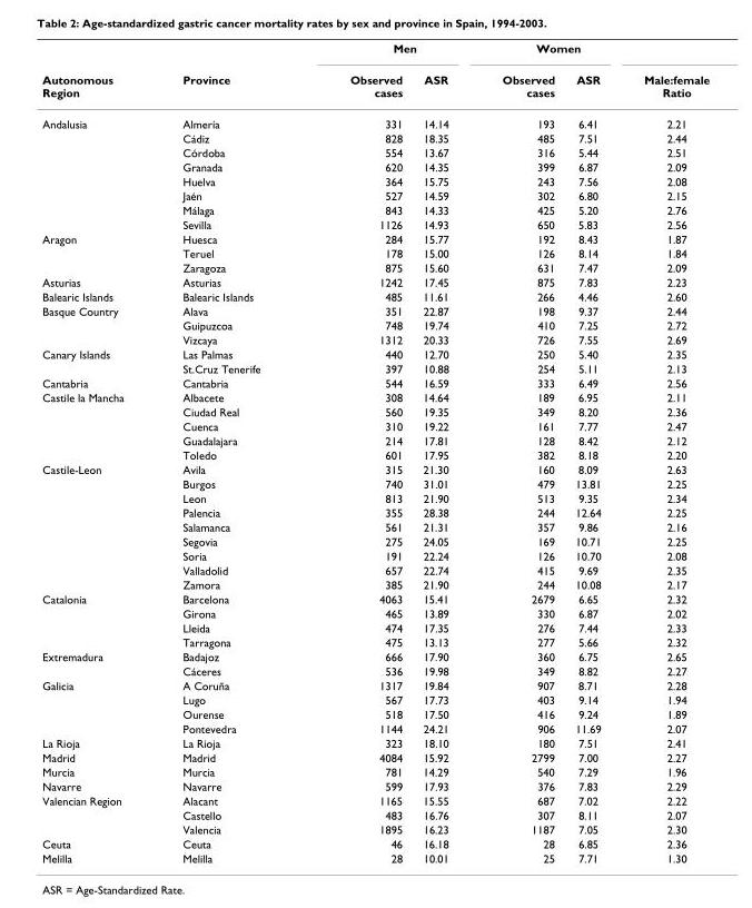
<table><thead><tr><td rowspan="2">Autonomous Region</td><td rowspan="2">Province</td><td colspan="2">Men</td><td colspan="2">Women</td><td rowspan="2">Male:female Ratio</td></tr><tr><td>Observed cases</td><td>ASR</td><td>Observed cases</td><td>ASR</td></tr></thead><tbody><tr><td rowspan="8">Andalusia</td><td>Almería</td><td>331</td><td>14.14</td><td>193</td><td>6.41</td><td>2.21</td></tr><tr><td>Cádiz</td><td>828</td><td>18.35</td><td>485</td><td>7.51</td><td>2.44</td></tr><tr><td>Córdoba</td><td>554</td><td>13.67</td><td>316</td><td>5.44</td><td>2.51</td></tr><tr><td>Granada</td><td>620</td><td>14.35</td><td>399</td><td>6.87</td><td>2.09</td></tr><tr><td>Huelva</td><td>364</td><td>15.75</td><td>243</td><td>7.56</td><td>2.08</td></tr><tr><td>Jaén</td><td>527</td><td>14.59</td><td>302</td><td>6.80</td><td>2.15</td></tr><tr><td>Málaga</td><td>843</td><td>14.33</td><td>425</td><td>5.20</td><td>2.76</td></tr><tr><td>Sevilla</td><td>1126</td><td>14.93</td><td>650</td><td>5.83</td><td>2.56</td></tr><tr><td rowspan="3">Aragon</td><td>Huesca</td><td>284</td><td>15.77</td><td>192</td><td>8.43</td><td>1.87</td></tr><tr><td>Teruel</td><td>178</td><td>15.00</td><td>126</td><td>8.14</td><td>1.84</td></tr><tr><td>Zaragoza</td><td>875</td><td>15.60</td><td>631</td><td>7.47</td><td>2.09</td></tr><tr><td>Asturias</td><td>Asturias</td><td>1242</td><td>17.45</td><td>875</td><td>7.83</td><td>2.23</td></tr><tr><td>Balearic Islands</td><td>Balearic Islands</td><td>485</td><td>11.61</td><td>266</td><td>4.46</td><td>2.60</td></tr><tr><td rowspan="3">Basque Country</td><td>Alava</td><td>351</td><td>22.87</td><td>198</td><td>9.37</td><td>2.44</td></tr><tr><td>Guipuzcoa</td><td>748</td><td>19.74</td><td>410</td><td>7.25</td><td>2.72</td></tr><tr><td>Vizcaya</td><td>1312</td><td>20.33</td><td>726</td><td>7.55</td><td>2.69</td></tr><tr><td rowspan="2">Canary Islands</td><td>Las Palmas</td><td>440</td><td>12.70</td><td>250</td><td>5.40</td><td>2.35</td></tr><tr><td>St.Cruz Tenerife</td><td>397</td><td>10.88</td><td>254</td><td>5.11</td><td>2.13</td></tr><tr><td>Cantabria</td><td>Cantabria</td><td>544</td><td>16.59</td><td>333</td><td>6.49</td><td>2.56</td></tr><tr><td rowspan="5">Castile la Mancha</td><td>Albacete</td><td>308</td><td>14.64</td><td>189</td><td>6.95</td><td>2.11</td></tr><tr><td>Ciudad Real</td><td>560</td><td>19.35</td><td>349</td><td>8.20</td><td>2.36</td></tr><tr><td>Cuenca</td><td>310</td><td>19.22</td><td>161</td><td>7.77</td><td>2.47</td></tr><tr><td>Guadalajara</td><td>214</td><td>17.81</td><td>128</td><td>8.42</td><td>2.12</td></tr><tr><td>Toledo</td><td>601</td><td>17.95</td><td>382</td><td>8.18</td><td>2.20</td></tr><tr><td rowspan="9">Castile-Leon</td><td>Avila</td><td>315</td><td>21.30</td><td>160</td><td>8.09</td><td>2.63</td></tr><tr><td>Burgos</td><td>740</td><td>31.01</td><td>479</td><td>13.81</td><td>2.25</td></tr><tr><td>Leon</td><td>813</td><td>21.90</td><td>513</td><td>9.35</td><td>2.34</td></tr><tr><td>Palencia</td><td>355</td><td>28.38</td><td>244</td><td>12.64</td><td>2.25</td></tr><tr><td>Salamanca</td><td>561</td><td>21.31</td><td>357</td><td>9.86</td><td>2.16</td></tr><tr><td>Segovia</td><td>275</td><td>24.05</td><td>169</td><td>10.71</td><td>2.25</td></tr><tr><td>Soria</td><td>191</td><td>22.24</td><td>126</td><td>10.70</td><td>2.08</td></tr><tr><td>Valladolid</td><td>657</td><td>22.74</td><td>415</td><td>9.69</td><td>2.35</td></tr><tr><td>Zamora</td><td>385</td><td>21.90</td><td>244</td><td>10.08</td><td>2.17</td></tr><tr><td rowspan="4">Catalonia</td><td>Barcelona</td><td>4063</td><td>15.41</td><td>2679</td><td>6.65</td><td>2.32</td></tr><tr><td>Girona</td><td>465</td><td>13.89</td><td>330</td><td>6.87</td><td>2.02</td></tr><tr><td>Lleida</td><td>474</td><td>17.35</td><td>276</td><td>7.44</td><td>2.33</td></tr><tr><td>Tarragona</td><td>475</td><td>13.13</td><td>277</td><td>5.66</td><td>2.32</td></tr><tr><td rowspan="2">Extremadura</td><td>Badajoz</td><td>666</td><td>17.90</td><td>360</td><td>6.75</td><td>2.65</td></tr><tr><td>Cáceres</td><td>536</td><td>19.98</td><td>349</td><td>8.82</td><td>2.27</td></tr><tr><td rowspan="4">Galicia</td><td>A Coruña</td><td>1317</td><td>19.84</td><td>907</td><td>8.71</td><td>2.28</td></tr><tr><td>Lugo</td><td>567</td><td>17.73</td><td>403</td><td>9.14</td><td>1.94</td></tr><tr><td>Ourense</td><td>518</td><td>17.50</td><td>416</td><td>9.24</td><td>1.89</td></tr><tr><td>Pontevedra</td><td>1144</td><td>24.21</td><td>906</td><td>11.69</td><td>2.07</td></tr><tr><td>La Rioja</td><td>La Rioja</td><td>323</td><td>18.10</td><td>180</td><td>7.51</td><td>2.41</td></tr><tr><td>Madrid</td><td>Madrid</td><td>4084</td><td>15.92</td><td>2799</td><td>7.00</td><td>2.27</td></tr><tr><td>Murcia</td><td>Murcia</td><td>781</td><td>14.29</td><td>540</td><td>7.29</td><td>1.96</td></tr><tr><td>Navarre</td><td>Navarre</td><td>599</td><td>17.93</td><td>376</td><td>7.83</td><td>2.29</td></tr><tr><td rowspan="3">Valencian Region</td><td>Alacant</td><td>1165</td><td>15.55</td><td>687</td><td>7.02</td><td>2.22</td></tr><tr><td>Castello</td><td>483</td><td>16.76</td><td>307</td><td>8.11</td><td>2.07</td></tr><tr><td>Valencia</td><td>1895</td><td>16.23</td><td>1187</td><td>7.05</td><td>2.30</td></tr><tr><td>Ceuta</td><td>Ceuta</td><td>46</td><td>16.18</td><td>28</td><td>6.85</td><td>2.36</td></tr><tr><td>Melilla</td><td>Melilla</td><td>28</td><td>10.01</td><td>25</td><td>7.71</td><td>1.30</td></tr></tbody></table>